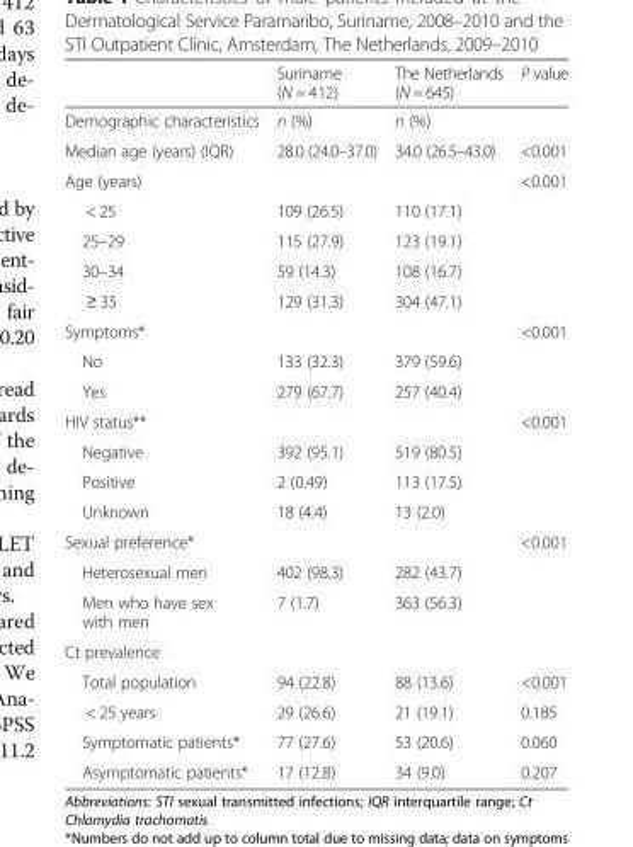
<table><thead><tr><td></td><td>Suriname (N = 412)</td><td>The Netherlands (N = 645)</td><td>P value</td></tr></thead><tbody><tr><td>Demographic characteristics</td><td>n (%)</td><td>n (%)</td><td></td></tr><tr><td>Median age (years) (IQR)</td><td>28.0 (24.0–37.0)</td><td>34.0 (26.5–43.0)</td><td>&lt;0.001</td></tr><tr><td>Age (years)</td><td></td><td></td><td>&lt;0.001</td></tr><tr><td>&lt; 25</td><td>109 (26.5)</td><td>110 (17.1)</td><td></td></tr><tr><td>25–29</td><td>115 (27.9)</td><td>123 (19.1)</td><td></td></tr><tr><td>30–34</td><td>59 (14.3)</td><td>108 (16.7)</td><td></td></tr><tr><td>≥ 35</td><td>129 (31.3)</td><td>304 (47.1)</td><td></td></tr><tr><td>Symptoms*</td><td></td><td></td><td>&lt;0.001</td></tr><tr><td>No</td><td>133 (32.3)</td><td>379 (59.6)</td><td></td></tr><tr><td>Yes</td><td>279 (67.7)</td><td>257 (40.4)</td><td></td></tr><tr><td>HIV status**</td><td></td><td></td><td>&lt;0.001</td></tr><tr><td>Negative</td><td>392 (95.1)</td><td>519 (80.5)</td><td></td></tr><tr><td>Positive</td><td>2 (0.49)</td><td>113 (17.5)</td><td></td></tr><tr><td>Unknown</td><td>18 (4.4)</td><td>13 (2.0)</td><td></td></tr><tr><td>Sexual preference*</td><td></td><td></td><td>&lt;0.001</td></tr><tr><td>Heterosexual men</td><td>402 (98.3)</td><td>282 (43.7)</td><td></td></tr><tr><td>Men who have sex with men</td><td>7 (1.7)</td><td>363 (56.3)</td><td></td></tr><tr><td colspan="4">Ct prevalence</td></tr><tr><td>Total population</td><td>94 (22.8)</td><td>88 (13.6)</td><td>&lt;0.001</td></tr><tr><td>&lt; 25 years</td><td>29 (26.6)</td><td>21 (19.1)</td><td>0.185</td></tr><tr><td>Symptomatic patients*</td><td>77 (27.6)</td><td>53 (20.6)</td><td>0.060</td></tr><tr><td>Asymptomatic patients*</td><td>17 (12.8)</td><td>34 (9.0)</td><td>0.207</td></tr></tbody></table>